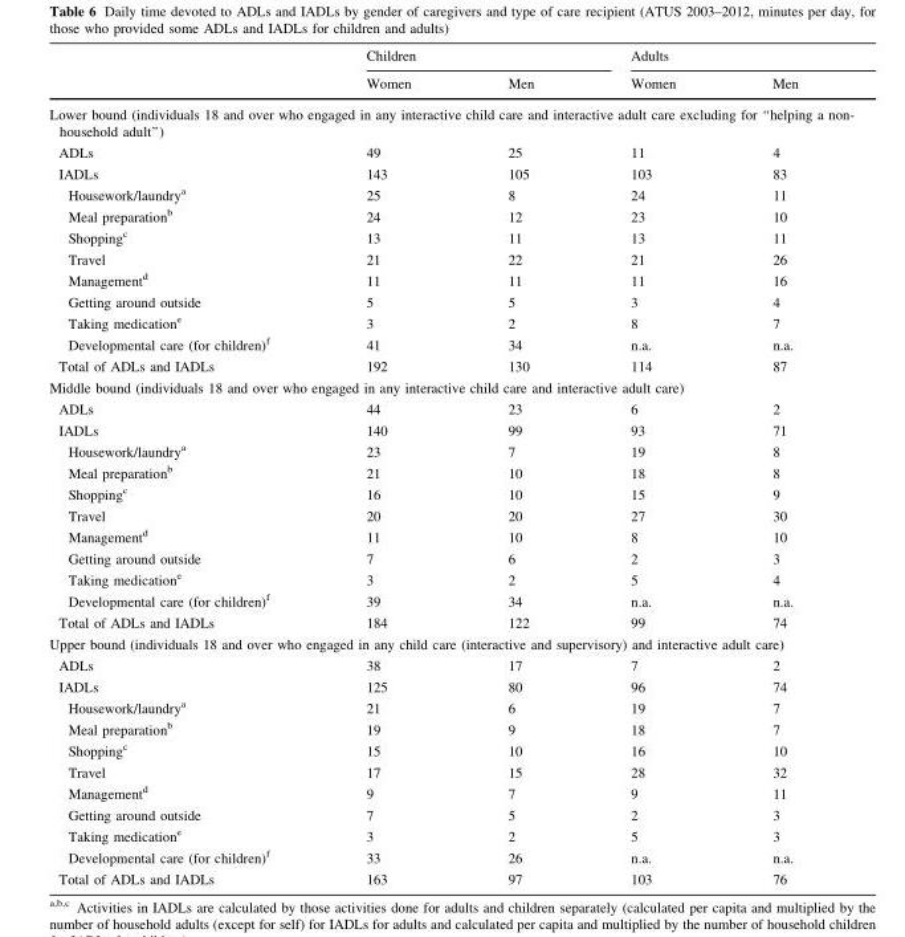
<table><thead><tr><td rowspan="2"></td><td colspan="2">Children</td><td colspan="2">Adults</td></tr><tr><td>Women</td><td>Men</td><td>Women</td><td>Men</td></tr></thead><tbody><tr><td colspan="5">Lower bound (individuals 18 and over who engaged in any interactive child care and interactive adult care excluding for ‘‘helping a non- household adult’’)</td></tr><tr><td>ADLs</td><td>49</td><td>25</td><td>11</td><td>4</td></tr><tr><td>IADLs</td><td>143</td><td>105</td><td>103</td><td>83</td></tr><tr><td>Housework/laundry<sup>a</sup></td><td>25</td><td>8</td><td>24</td><td>11</td></tr><tr><td>Meal preparation<sup>b</sup></td><td>24</td><td>12</td><td>23</td><td>10</td></tr><tr><td>Shopping<sup>c</sup></td><td>13</td><td>11</td><td>13</td><td>11</td></tr><tr><td>Travel</td><td>21</td><td>22</td><td>21</td><td>26</td></tr><tr><td>Management<sup>d</sup></td><td>11</td><td>11</td><td>11</td><td>16</td></tr><tr><td>Getting around outside</td><td>5</td><td>5</td><td>3</td><td>4</td></tr><tr><td>Taking medication<sup>e</sup></td><td>3</td><td>2</td><td>8</td><td>7</td></tr><tr><td>Developmental care (for children)<sup>f</sup></td><td>41</td><td>34</td><td>n.a.</td><td>n.a.</td></tr><tr><td>Total of ADLs and IADLs</td><td>192</td><td>130</td><td>114</td><td>87</td></tr><tr><td colspan="5">Middle bound (individuals 18 and over who engaged in any interactive child care and interactive adult care)</td></tr><tr><td>ADLs</td><td>44</td><td>23</td><td>6</td><td>2</td></tr><tr><td>IADLs</td><td>140</td><td>99</td><td>93</td><td>71</td></tr><tr><td>Housework/laundry<sup>a</sup></td><td>23</td><td>7</td><td>19</td><td>8</td></tr><tr><td>Meal preparation<sup>b</sup></td><td>21</td><td>10</td><td>18</td><td>8</td></tr><tr><td>Shopping<sup>c</sup></td><td>16</td><td>10</td><td>15</td><td>9</td></tr><tr><td>Travel</td><td>20</td><td>20</td><td>27</td><td>30</td></tr><tr><td>Management<sup>d</sup></td><td>11</td><td>10</td><td>8</td><td>10</td></tr><tr><td>Getting around outside</td><td>7</td><td>6</td><td>2</td><td>3</td></tr><tr><td>Taking medication<sup>e</sup></td><td>3</td><td>2</td><td>5</td><td>4</td></tr><tr><td>Developmental care (for children)<sup>f</sup></td><td>39</td><td>34</td><td>n.a.</td><td>n.a.</td></tr><tr><td>Total of ADLs and IADLs</td><td>184</td><td>122</td><td>99</td><td>74</td></tr><tr><td colspan="5">Upper bound (individuals 18 and over who engaged in any child care (interactive and supervisory) and interactive adult care)</td></tr><tr><td>ADLs</td><td>38</td><td>17</td><td>7</td><td>2</td></tr><tr><td>IADLs</td><td>125</td><td>80</td><td>96</td><td>74</td></tr><tr><td>Housework/laundry<sup>a</sup></td><td>21</td><td>6</td><td>19</td><td>7</td></tr><tr><td>Meal preparation<sup>b</sup></td><td>19</td><td>9</td><td>18</td><td>7</td></tr><tr><td>Shopping<sup>c</sup></td><td>15</td><td>10</td><td>16</td><td>10</td></tr><tr><td>Travel</td><td>17</td><td>15</td><td>28</td><td>32</td></tr><tr><td>Management<sup>d</sup></td><td>9</td><td>7</td><td>9</td><td>11</td></tr><tr><td>Getting around outside</td><td>7</td><td>5</td><td>2</td><td>3</td></tr><tr><td>Taking medication<sup>e</sup></td><td>3</td><td>2</td><td>5</td><td>3</td></tr><tr><td>Developmental care (for children)<sup>f</sup></td><td>33</td><td>26</td><td>n.a.</td><td>n.a.</td></tr><tr><td>Total of ADLs and IADLs</td><td>163</td><td>97</td><td>103</td><td>76</td></tr></tbody></table>